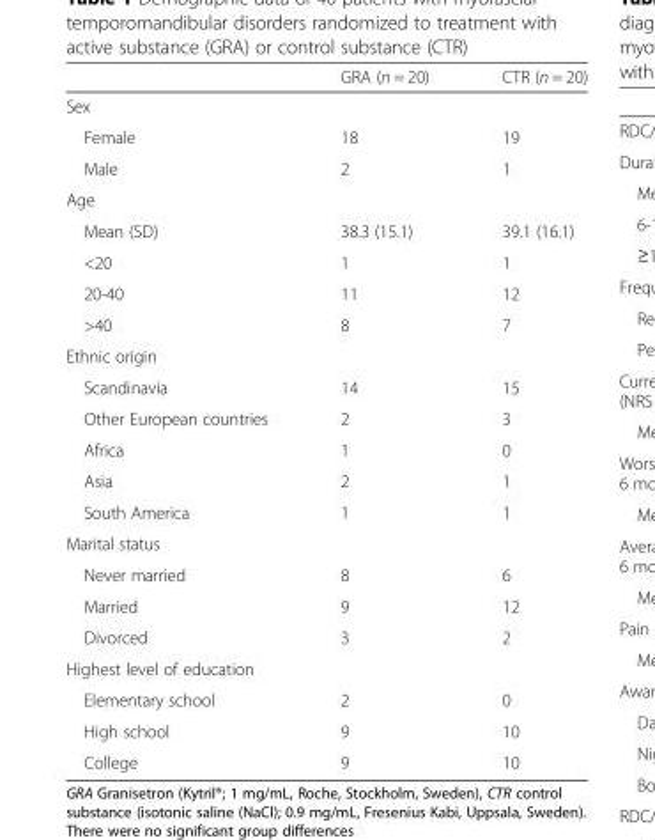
<table><thead><tr><td></td><td>GRA (n = 20)</td><td>CTR (n = 20)</td></tr></thead><tbody><tr><td colspan="3">Sex</td></tr><tr><td>Female</td><td>18</td><td>19</td></tr><tr><td>Male</td><td>2</td><td>1</td></tr><tr><td colspan="3">Age</td></tr><tr><td>Mean (SD)</td><td>38.3 (15.1)</td><td>39.1 (16.1)</td></tr><tr><td>&lt;20</td><td>1</td><td>1</td></tr><tr><td>20-40</td><td>11</td><td>12</td></tr><tr><td>&gt;40</td><td>8</td><td>7</td></tr><tr><td colspan="3">Ethnic origin</td></tr><tr><td>Scandinavia</td><td>14</td><td>15</td></tr><tr><td>Other European countries</td><td>2</td><td>3</td></tr><tr><td>Africa</td><td>1</td><td>0</td></tr><tr><td>Asia</td><td>2</td><td>1</td></tr><tr><td>South America</td><td>1</td><td>1</td></tr><tr><td colspan="3">Marital status</td></tr><tr><td>Never married</td><td>8</td><td>6</td></tr><tr><td>Married</td><td>9</td><td>12</td></tr><tr><td>Divorced</td><td>3</td><td>2</td></tr><tr><td colspan="3">Highest level of education</td></tr><tr><td>Elementary school</td><td>2</td><td>0</td></tr><tr><td>High school</td><td>9</td><td>10</td></tr><tr><td>College</td><td>9</td><td>10</td></tr></tbody></table>